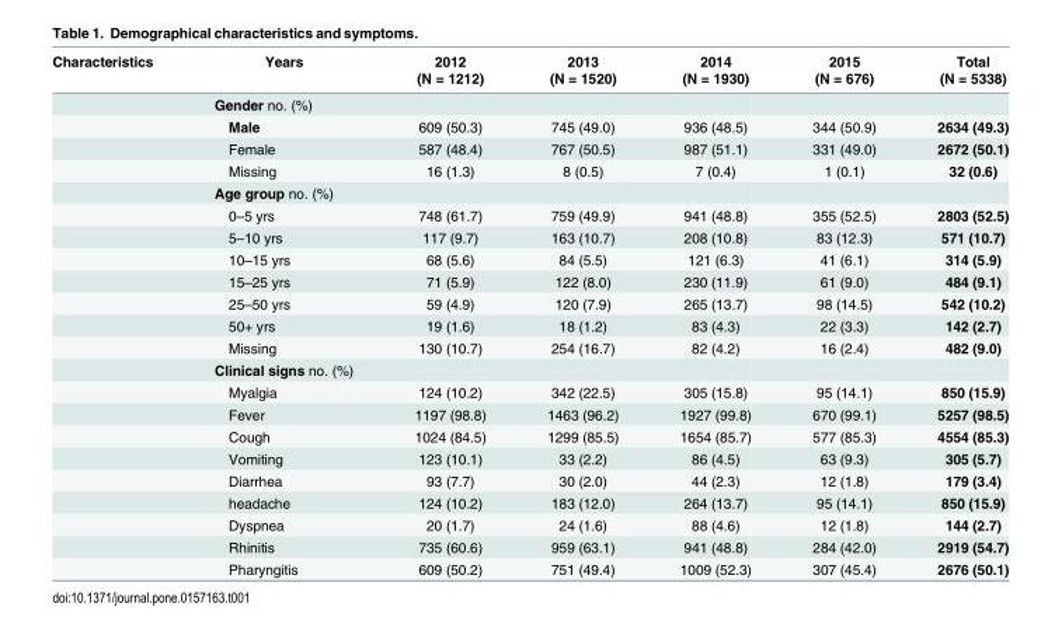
<table><thead><tr><td rowspan="2">Characteristics</td><td rowspan="2">Years</td><td rowspan="2">2012 (N = 1212)</td><td rowspan="2">2013 (N = 1520)</td><td rowspan="2">2014 (N = 1930)</td><td rowspan="2">2015 (N = 676)</td><td rowspan="2">Total (N = 5338)</td></tr><tr></tr></thead><tbody><tr><td></td><td>Gender no. (%)</td><td></td><td></td><td></td><td></td><td></td></tr><tr><td></td><td>Male</td><td>609 (50.3)</td><td>745 (49.0)</td><td>936 (48.5)</td><td>344 (50.9)</td><td>2634 (49.3)</td></tr><tr><td></td><td>Female</td><td>587 (48.4)</td><td>767 (50.5)</td><td>987 (51.1)</td><td>331 (49.0)</td><td>2672 (50.1)</td></tr><tr><td></td><td>Missing</td><td>16 (1.3)</td><td>8 (0.5)</td><td>7 (0.4)</td><td>1 (0.1)</td><td>32 (0.6)</td></tr><tr><td></td><td>Age group no. (%)</td><td></td><td></td><td></td><td></td><td></td></tr><tr><td></td><td>0–5 yrs</td><td>748 (61.7)</td><td>759 (49.9)</td><td>941 (48.8)</td><td>355 (52.5)</td><td>2803 (52.5)</td></tr><tr><td></td><td>5–10 yrs</td><td>117 (9.7)</td><td>163 (10.7)</td><td>208 (10.8)</td><td>83 (12.3)</td><td>571 (10.7)</td></tr><tr><td></td><td>10–15 yrs</td><td>68 (5.6)</td><td>84 (5.5)</td><td>121 (6.3)</td><td>41 (6.1)</td><td>314 (5.9)</td></tr><tr><td></td><td>15–25 yrs</td><td>71 (5.9)</td><td>122 (8.0)</td><td>230 (11.9)</td><td>61 (9.0)</td><td>484 (9.1)</td></tr><tr><td></td><td>25–50 yrs</td><td>59 (4.9)</td><td>120 (7.9)</td><td>265 (13.7)</td><td>98 (14.5)</td><td>542 (10.2)</td></tr><tr><td></td><td>50+ yrs</td><td>19 (1.6)</td><td>18 (1.2)</td><td>83 (4.3)</td><td>22 (3.3)</td><td>142 (2.7)</td></tr><tr><td></td><td>Missing</td><td>130 (10.7)</td><td>254 (16.7)</td><td>82 (4.2)</td><td>16 (2.4)</td><td>482 (9.0)</td></tr><tr><td></td><td>Clinical signs no. (%)</td><td></td><td></td><td></td><td></td><td></td></tr><tr><td></td><td>Myalgia</td><td>124 (10.2)</td><td>342 (22.5)</td><td>305 (15.8)</td><td>95 (14.1)</td><td>850 (15.9)</td></tr><tr><td></td><td>Fever</td><td>1197 (98.8)</td><td>1463 (96.2)</td><td>1927 (99.8)</td><td>670 (99.1)</td><td>5257 (98.5)</td></tr><tr><td></td><td>Cough</td><td>1024 (84.5)</td><td>1299 (85.5)</td><td>1654 (85.7)</td><td>577 (85.3)</td><td>4554 (85.3)</td></tr><tr><td></td><td>Vomiting</td><td>123 (10.1)</td><td>33 (2.2)</td><td>86 (4.5)</td><td>63 (9.3)</td><td>305 (5.7)</td></tr><tr><td></td><td>Diarrhea</td><td>93 (7.7)</td><td>30 (2.0)</td><td>44 (2.3)</td><td>12 (1.8)</td><td>179 (3.4)</td></tr><tr><td></td><td>headache</td><td>124 (10.2)</td><td>183 (12.0)</td><td>264 (13.7)</td><td>95 (14.1)</td><td>850 (15.9)</td></tr><tr><td></td><td>Dyspnea</td><td>20 (1.7)</td><td>24 (1.6)</td><td>88 (4.6)</td><td>12 (1.8)</td><td>144 (2.7)</td></tr><tr><td></td><td>Rhinitis</td><td>735 (60.6)</td><td>959 (63.1)</td><td>941 (48.8)</td><td>284 (42.0)</td><td>2919 (54.7)</td></tr><tr><td></td><td>Pharyngitis</td><td>609 (50.2)</td><td>751 (49.4)</td><td>1009 (52.3)</td><td>307 (45.4)</td><td>2676 (50.1)</td></tr></tbody></table>